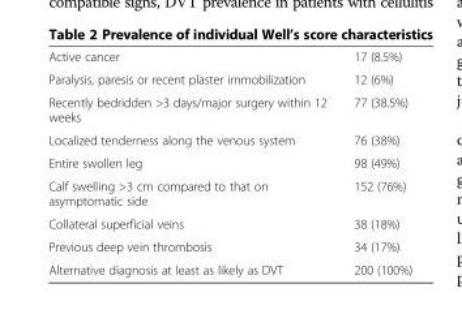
<table><tbody><tr><td>Active cancer</td><td>17 (8.5%)</td></tr><tr><td>Paralysis, paresis or recent plaster immobilization</td><td>12 (6%)</td></tr><tr><td>Recently bedridden &gt;3 days/major surgery within 12 weeks</td><td>77 (38.5%)</td></tr><tr><td>Localized tenderness along the venous system</td><td>76 (38%)</td></tr><tr><td>Entire swollen leg</td><td>98 (49%)</td></tr><tr><td>Calf swelling &gt;3 cm compared to that on asymptomatic side</td><td>152 (76%)</td></tr><tr><td>Collateral superficial veins</td><td>38 (18%)</td></tr><tr><td>Previous deep vein thrombosis</td><td>34 (17%)</td></tr><tr><td>Alternative diagnosis at least as likely as DVT</td><td>200 (100%)</td></tr></tbody></table>